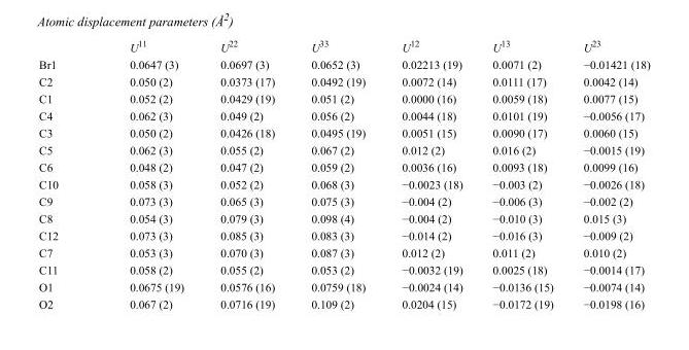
<table><thead><tr><td></td><td>U<sup>11</sup></td><td>U<sup>22</sup></td><td>U<sup>33</sup></td><td>U<sup>12</sup></td><td>U<sup>13</sup></td><td>U<sup>23</sup></td></tr></thead><tbody><tr><td>Br1</td><td>0.0647 (3)</td><td>0.0697 (3)</td><td>0.0652 (3)</td><td>0.02213 (19)</td><td>0.0071 (2)</td><td>−0.01421 (18)</td></tr><tr><td>C2</td><td>0.050 (2)</td><td>0.0373 (17)</td><td>0.0492 (19)</td><td>0.0072 (14)</td><td>0.0111 (17)</td><td>0.0042 (14)</td></tr><tr><td>C1</td><td>0.052 (2)</td><td>0.0429 (19)</td><td>0.051 (2)</td><td>0.0000 (16)</td><td>0.0059 (18)</td><td>0.0077 (15)</td></tr><tr><td>C4</td><td>0.062 (3)</td><td>0.049 (2)</td><td>0.056 (2)</td><td>0.0044 (18)</td><td>0.0101 (19)</td><td>−0.0056 (17)</td></tr><tr><td>C3</td><td>0.050 (2)</td><td>0.0426 (18)</td><td>0.0495 (19)</td><td>0.0051 (15)</td><td>0.0090 (17)</td><td>0.0060 (15)</td></tr><tr><td>C5</td><td>0.062 (3)</td><td>0.055 (2)</td><td>0.067 (2)</td><td>0.012 (2)</td><td>0.016 (2)</td><td>−0.0015 (19)</td></tr><tr><td>C6</td><td>0.048 (2)</td><td>0.047 (2)</td><td>0.059 (2)</td><td>0.0036 (16)</td><td>0.0093 (18)</td><td>0.0099 (16)</td></tr><tr><td>C10</td><td>0.058 (3)</td><td>0.052 (2)</td><td>0.068 (3)</td><td>−0.0023 (18)</td><td>−0.003 (2)</td><td>−0.0026 (18)</td></tr><tr><td>C9</td><td>0.073 (3)</td><td>0.065 (3)</td><td>0.075 (3)</td><td>−0.004 (2)</td><td>−0.006 (3)</td><td>−0.002 (2)</td></tr><tr><td>C8</td><td>0.054 (3)</td><td>0.079 (3)</td><td>0.098 (4)</td><td>−0.004 (2)</td><td>−0.010 (3)</td><td>0.015 (3)</td></tr><tr><td>C12</td><td>0.073 (3)</td><td>0.085 (3)</td><td>0.083 (3)</td><td>−0.014 (2)</td><td>−0.016 (3)</td><td>−0.009 (2)</td></tr><tr><td>C7</td><td>0.053 (3)</td><td>0.070 (3)</td><td>0.087 (3)</td><td>0.012 (2)</td><td>0.011 (2)</td><td>0.010 (2)</td></tr><tr><td>C11</td><td>0.058 (2)</td><td>0.055 (2)</td><td>0.053 (2)</td><td>−0.0032 (19)</td><td>0.0025 (18)</td><td>−0.0014 (17)</td></tr><tr><td>O1</td><td>0.0675 (19)</td><td>0.0576 (16)</td><td>0.0759 (18)</td><td>−0.0024 (14)</td><td>−0.0136 (15)</td><td>−0.0074 (14)</td></tr><tr><td>O2</td><td>0.067 (2)</td><td>0.0716 (19)</td><td>0.109 (2)</td><td>0.0204 (15)</td><td>−0.0172 (19)</td><td>−0.0198 (16)</td></tr></tbody></table>